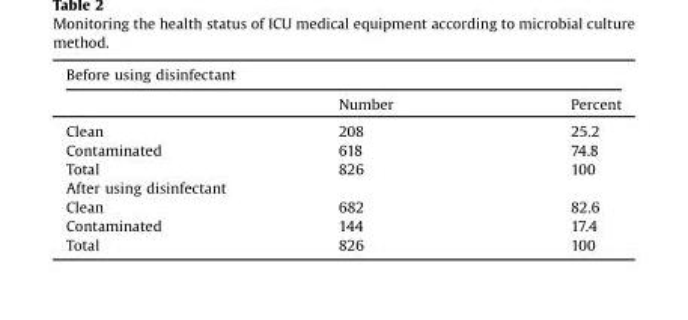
<table><thead><tr><td colspan="3">Before using disinfectant</td></tr><tr><td></td><td>Number</td><td>Percent</td></tr></thead><tbody><tr><td>Clean</td><td>208</td><td>25.2</td></tr><tr><td>Contaminated</td><td>618</td><td>74.8</td></tr><tr><td>Total</td><td>826</td><td>100</td></tr><tr><td colspan="3">After using disinfectant</td></tr><tr><td>Clean</td><td>682</td><td>82.6</td></tr><tr><td>Contaminated</td><td>144</td><td>17.4</td></tr><tr><td>Total</td><td>826</td><td>100</td></tr></tbody></table>